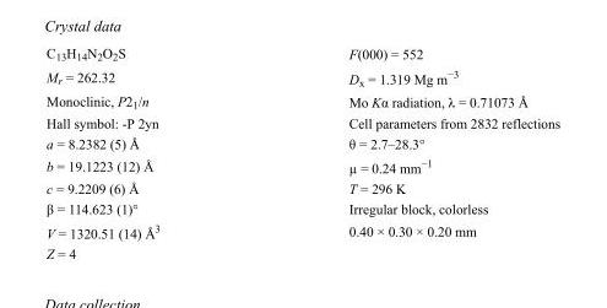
<table><tbody><tr><td>C<sub>13</sub>H<sub>14</sub>N<sub>2</sub>O<sub>2</sub>S</td><td>F(000) = 552</td></tr><tr><td>M<sub>r</sub> = 262.32</td><td>D<sub>x</sub> = 1.319 Mg m<sup>−3</sup></td></tr><tr><td>Monoclinic, P2<sub>1</sub>/n</td><td>Mo Kα radiation, λ = 0.71073 Å</td></tr><tr><td>Hall symbol: -P 2yn</td><td>Cell parameters from 2832 reflections</td></tr><tr><td>a = 8.2382 (5) Å</td><td>θ = 2.7–28.3°</td></tr><tr><td>b = 19.1223 (12) Å</td><td>µ = 0.24 mm<sup>−1</sup></td></tr><tr><td>c = 9.2209 (6) Å</td><td>T = 296 K</td></tr><tr><td>β = 114.623 (1)°</td><td>Irregular block, colorless</td></tr><tr><td>V = 1320.51 (14) Å<sup>3</sup></td><td>0.40 × 0.30 × 0.20 mm</td></tr><tr><td>Z = 4</td><td></td></tr></tbody></table>